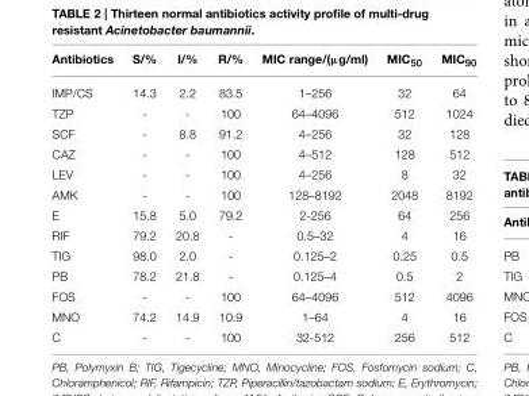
<table><thead><tr><td>Antibiotics</td><td>S/%</td><td>I/%</td><td>R/%</td><td>MIC range/(μg/ml)</td><td>MIC<sub>50</sub></td><td>MIC<sub>90</sub></td></tr></thead><tbody><tr><td>IMP/CS</td><td>14.3</td><td>2.2</td><td>83.5</td><td>1–256</td><td>32</td><td>64</td></tr><tr><td>TZP</td><td>-</td><td>-</td><td>100</td><td>64–4096</td><td>512</td><td>1024</td></tr><tr><td>SCF</td><td>-</td><td>8.8</td><td>91.2</td><td>4–256</td><td>32</td><td>128</td></tr><tr><td>CAZ</td><td>-</td><td>-</td><td>100</td><td>4–512</td><td>128</td><td>512</td></tr><tr><td>LEV</td><td>-</td><td>-</td><td>100</td><td>4–256</td><td>8</td><td>32</td></tr><tr><td>AMK</td><td>-</td><td>-</td><td>100</td><td>128–8192</td><td>2048</td><td>8192</td></tr><tr><td>E</td><td>15.8</td><td>5.0</td><td>79.2</td><td>2-256</td><td>64</td><td>256</td></tr><tr><td>RIF</td><td>79.2</td><td>20.8</td><td>-</td><td>0.5–32</td><td>4</td><td>16</td></tr><tr><td>TIG</td><td>98.0</td><td>2.0</td><td>-</td><td>0.125–2</td><td>0.25</td><td>0.5</td></tr><tr><td>PB</td><td>78.2</td><td>21.8</td><td>-</td><td>0.125–4</td><td>0.5</td><td>2</td></tr><tr><td>FOS</td><td>-</td><td>-</td><td>100</td><td>64–4096</td><td>512</td><td>4096</td></tr><tr><td>MNO</td><td>74.2</td><td>14.9</td><td>10.9</td><td>1–64</td><td>4</td><td>16</td></tr><tr><td>C</td><td>-</td><td>-</td><td>100</td><td>32-512</td><td>256</td><td>512</td></tr></tbody></table>